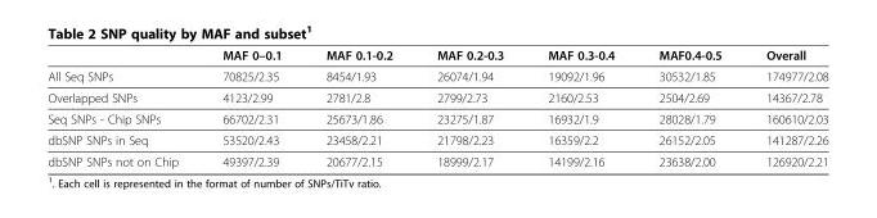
<table><thead><tr><td></td><td>MAF 0–0.1</td><td>MAF 0.1-0.2</td><td>MAF 0.2-0.3</td><td>MAF 0.3-0.4</td><td>MAF0.4-0.5</td><td>Overall</td></tr></thead><tbody><tr><td>All Seq SNPs</td><td>70825/2.35</td><td>8454/1.93</td><td>26074/1.94</td><td>19092/1.96</td><td>30532/1.85</td><td>174977/2.08</td></tr><tr><td>Overlapped SNPs</td><td>4123/2.99</td><td>2781/2.8</td><td>2799/2.73</td><td>2160/2.53</td><td>2504/2.69</td><td>14367/2.78</td></tr><tr><td>Seq SNPs - Chip SNPs</td><td>66702/2.31</td><td>25673/1.86</td><td>23275/1.87</td><td>16932/1.9</td><td>28028/1.79</td><td>160610/2.03</td></tr><tr><td>dbSNP SNPs in Seq</td><td>53520/2.43</td><td>23458/2.21</td><td>21798/2.23</td><td>16359/2.2</td><td>26152/2.05</td><td>141287/2.26</td></tr><tr><td>dbSNP SNPs not on Chip</td><td>49397/2.39</td><td>20677/2.15</td><td>18999/2.17</td><td>14199/2.16</td><td>23638/2.00</td><td>126920/2.21</td></tr></tbody></table>